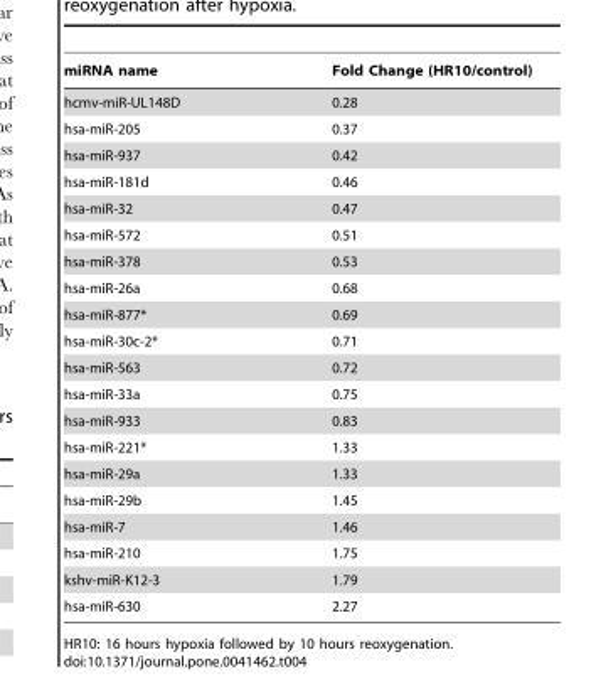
<table><thead><tr><td>miRNA name</td><td>Fold Change (HR10/control)</td></tr></thead><tbody><tr><td>hcmv-miR-UL148D</td><td>0.28</td></tr><tr><td>hsa-miR-205</td><td>0.37</td></tr><tr><td>hsa-miR-937</td><td>0.42</td></tr><tr><td>hsa-miR-181d</td><td>0.46</td></tr><tr><td>hsa-miR-32</td><td>0.47</td></tr><tr><td>hsa-miR-572</td><td>0.51</td></tr><tr><td>hsa-miR-378</td><td>0.53</td></tr><tr><td>hsa-miR-26a</td><td>0.68</td></tr><tr><td>hsa-miR-877*</td><td>0.69</td></tr><tr><td>hsa-miR-30c-2*</td><td>0.71</td></tr><tr><td>hsa-miR-563</td><td>0.72</td></tr><tr><td>hsa-miR-33a</td><td>0.75</td></tr><tr><td>hsa-miR-933</td><td>0.83</td></tr><tr><td>hsa-miR-221*</td><td>1.33</td></tr><tr><td>hsa-miR-29a</td><td>1.33</td></tr><tr><td>hsa-miR-29b</td><td>1.45</td></tr><tr><td>hsa-miR-7</td><td>1.46</td></tr><tr><td>hsa-miR-210</td><td>1.75</td></tr><tr><td>kshv-miR-K12-3</td><td>1.79</td></tr><tr><td>hsa-miR-630</td><td>2.27</td></tr></tbody></table>